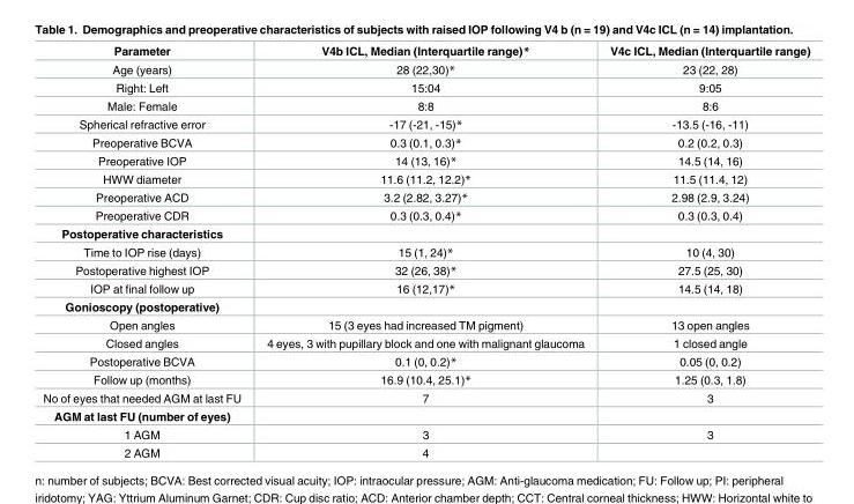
<table><thead><tr><td>Parameter</td><td>V4b ICL, Median (Interquartile range)*</td><td>V4c ICL, Median (Interquartile range)</td></tr></thead><tbody><tr><td>Age (years)</td><td>28 (22,30)*</td><td>23 (22, 28)</td></tr><tr><td>Right: Left</td><td>15:04</td><td>9:05</td></tr><tr><td>Male: Female</td><td>8:8</td><td>8:6</td></tr><tr><td>Spherical refractive error</td><td>-17 (-21, -15)*</td><td>-13.5 (-16, -11)</td></tr><tr><td>Preoperative BCVA</td><td>0.3 (0.1, 0.3)*</td><td>0.2 (0.2, 0.3)</td></tr><tr><td>Preoperative IOP</td><td>14 (13, 16)*</td><td>14.5 (14, 16)</td></tr><tr><td>HWW diameter</td><td>11.6 (11.2, 12.2)*</td><td>11.5 (11.4, 12)</td></tr><tr><td>Preoperative ACD</td><td>3.2 (2.82, 3.27)*</td><td>2.98 (2.9, 3.24)</td></tr><tr><td>Preoperative CDR</td><td>0.3 (0.3, 0.4)*</td><td>0.3 (0.3, 0.4)</td></tr><tr><td colspan="3">Postoperative characteristics</td></tr><tr><td>Time to IOP rise (days)</td><td>15 (1, 24)*</td><td>10 (4, 30)</td></tr><tr><td>Postoperative highest IOP</td><td>32 (26, 38)*</td><td>27.5 (25, 30)</td></tr><tr><td>IOP at final follow up</td><td>16 (12,17)*</td><td>14.5 (14, 18)</td></tr><tr><td colspan="3">Gonioscopy (postoperative)</td></tr><tr><td>Open angles</td><td>15 (3 eyes had increased TM pigment)</td><td>13 open angles</td></tr><tr><td>Closed angles</td><td>4 eyes, 3 with pupillary block and one with malignant glaucoma</td><td>1 closed angle</td></tr><tr><td>Postoperative BCVA</td><td>0.1 (0, 0.2)*</td><td>0.05 (0, 0.2)</td></tr><tr><td>Follow up (months)</td><td>16.9 (10.4, 25.1)*</td><td>1.25 (0.3, 1.8)</td></tr><tr><td>No of eyes that needed AGM at last FU</td><td>7</td><td>3</td></tr><tr><td colspan="3">AGM at last FU (number of eyes)</td></tr><tr><td>1 AGM</td><td>3</td><td>3</td></tr><tr><td>2 AGM</td><td>4</td><td></td></tr></tbody></table>